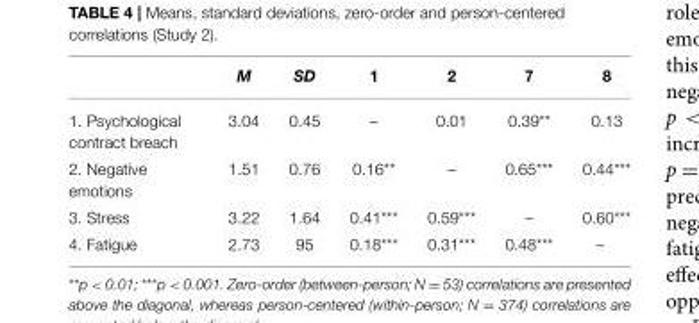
<table><thead><tr><td></td><td>M</td><td>SD</td><td>1</td><td>2</td><td>7</td><td>8</td></tr></thead><tbody><tr><td>1. Psychological contract breach</td><td>3.04</td><td>0.45</td><td>–</td><td>0.01</td><td>0.39**</td><td>0.13</td></tr><tr><td>2. Negative emotions</td><td>1.51</td><td>0.76</td><td>0.16**</td><td>–</td><td>0.65***</td><td>0.44***</td></tr><tr><td>3. Stress</td><td>3.22</td><td>1.64</td><td>0.41***</td><td>0.59***</td><td>–</td><td>0.60***</td></tr><tr><td>4. Fatigue</td><td>2.73</td><td>95</td><td>0.18***</td><td>0.31***</td><td>0.48***</td><td>–</td></tr></tbody></table>